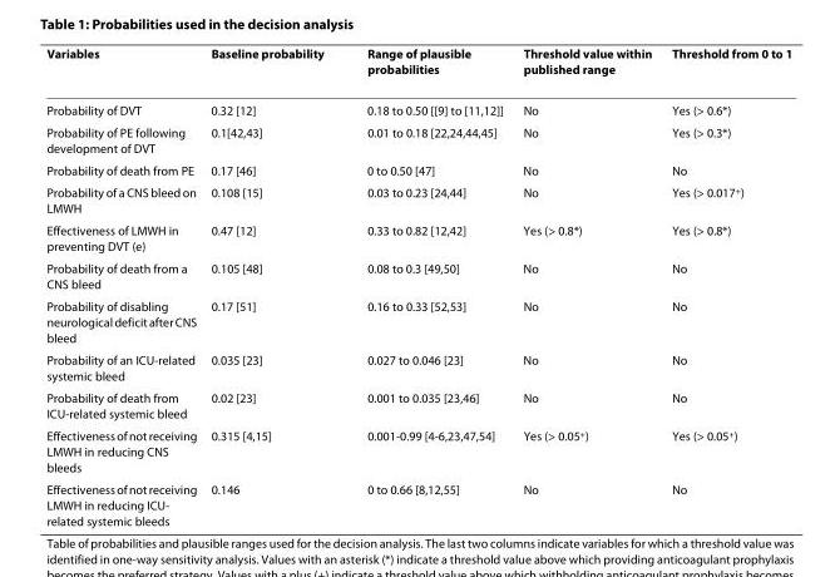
<table><thead><tr><td>Variables</td><td>Baseline probability</td><td>Range of plausible probabilities</td><td>Threshold value within published range</td><td>Threshold from 0 to 1</td></tr></thead><tbody><tr><td>Probability of DVT</td><td>0.32 [12]</td><td>0.18 to 0.50 [[9] to [11,12]]</td><td>No</td><td>Yes (&gt; 0.6*)</td></tr><tr><td>Probability of PE following development of DVT</td><td>0.1[42,43]</td><td>0.01 to 0.18 [22,24,44,45]</td><td>No</td><td>Yes (&gt; 0.3*)</td></tr><tr><td>Probability of death from PE</td><td>0.17 [46]</td><td>0 to 0.50 [47]</td><td>No</td><td>No</td></tr><tr><td>Probability of a CNS bleed on LMWH</td><td>0.108 [15]</td><td>0.03 to 0.23 [24,44]</td><td>No</td><td>Yes (&gt; 0.017<sup>+</sup>)</td></tr><tr><td>Effectiveness of LMWH in preventing DVT (e)</td><td>0.47 [12]</td><td>0.33 to 0.82 [12,42]</td><td>Yes (&gt; 0.8*)</td><td>Yes (&gt; 0.8*)</td></tr><tr><td>Probability of death from a CNS bleed</td><td>0.105 [48]</td><td>0.08 to 0.3 [49,50]</td><td>No</td><td>No</td></tr><tr><td>Probability of disabling neurological deficit after CNS bleed</td><td>0.17 [51]</td><td>0.16 to 0.33 [52,53]</td><td>No</td><td>No</td></tr><tr><td>Probability of an ICU-related systemic bleed</td><td>0.035 [23]</td><td>0.027 to 0.046 [23]</td><td>No</td><td>No</td></tr><tr><td>Probability of death from ICU-related systemic bleed</td><td>0.02 [23]</td><td>0.001 to 0.035 [23,46]</td><td>No</td><td>No</td></tr><tr><td>Effectiveness of not receiving LMWH in reducing CNS bleeds</td><td>0.315 [4,15]</td><td>0.001-0.99 [4-6,23,47,54]</td><td>Yes (&gt; 0.05<sup>+</sup>)</td><td>Yes (&gt; 0.05<sup>+</sup>)</td></tr><tr><td>Effectiveness of not receiving LMWH in reducing ICU- related systemic bleeds</td><td>0.146</td><td>0 to 0.66 [8,12,55]</td><td>No</td><td>No</td></tr></tbody></table>